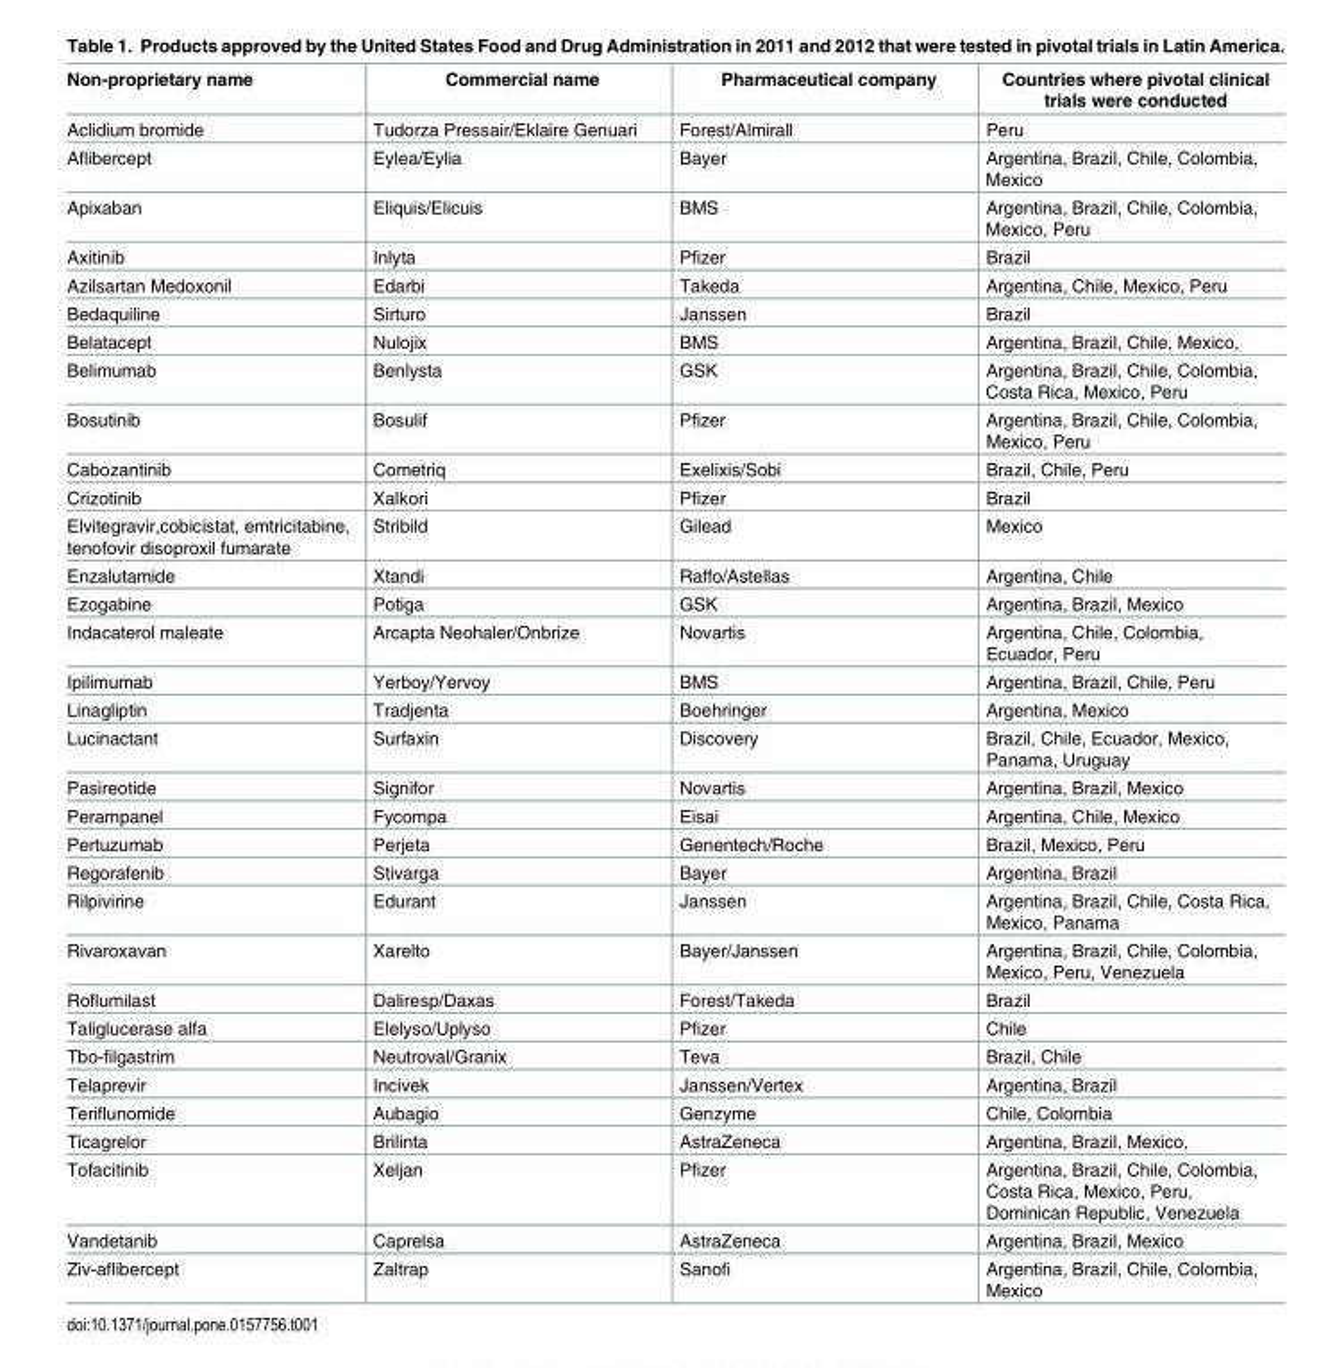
<table><thead><tr><td>Non-proprietary name</td><td>Commercial name</td><td>Pharmaceutical company</td><td>Countries where pivotal clinical trials were conducted</td></tr></thead><tbody><tr><td>Aclidium bromide</td><td>Tudorza Pressair/Eklaire Genuari</td><td>Forest/Almirall</td><td>Peru</td></tr><tr><td>Aflibercept</td><td>Eylea/Eylia</td><td>Bayer</td><td>Argentina, Brazil, Chile, Colombia, Mexico</td></tr><tr><td>Apixaban</td><td>Eliquis/Elicuis</td><td>BMS</td><td>Argentina, Brazil, Chile, Colombia, Mexico, Peru</td></tr><tr><td>Axitinib</td><td>Inlyta</td><td>Pfizer</td><td>Brazil</td></tr><tr><td>Azilsartan Medoxonil</td><td>Edarbi</td><td>Takeda</td><td>Argentina, Chile, Mexico, Peru</td></tr><tr><td>Bedaquiline</td><td>Sirturo</td><td>Janssen</td><td>Brazil</td></tr><tr><td>Belatacept</td><td>Nulojix</td><td>BMS</td><td>Argentina, Brazil, Chile, Mexico,</td></tr><tr><td>Belimumab</td><td>Benlysta</td><td>GSK</td><td>Argentina, Brazil, Chile, Colombia, Costa Rica, Mexico, Peru</td></tr><tr><td>Bosutinib</td><td>Bosulif</td><td>Pfizer</td><td>Argentina, Brazil, Chile, Colombia, Mexico, Peru</td></tr><tr><td>Cabozantinib</td><td>Cometriq</td><td>Exelixis/Sobi</td><td>Brazil, Chile, Peru</td></tr><tr><td>Crizotinib</td><td>Xalkori</td><td>Pfizer</td><td>Brazil</td></tr><tr><td>Elvitegravir,cobicistat, emtricitabine, tenofovir disoproxil fumarate</td><td>Stribild</td><td>Gilead</td><td>Mexico</td></tr><tr><td>Enzalutamide</td><td>Xtandi</td><td>Raffo/Astellas</td><td>Argentina, Chile</td></tr><tr><td>Ezogabine</td><td>Potiga</td><td>GSK</td><td>Argentina, Brazil, Mexico</td></tr><tr><td>Indacaterol maleate</td><td>Arcapta Neohaler/Onbrize</td><td>Novartis</td><td>Argentina, Chile, Colombia, Ecuador, Peru</td></tr><tr><td>Ipilimumab</td><td>Yerboy/Yervoy</td><td>BMS</td><td>Argentina, Brazil, Chile, Peru</td></tr><tr><td>Linagliptin</td><td>Tradjenta</td><td>Boehringer</td><td>Argentina, Mexico</td></tr><tr><td>Lucinactant</td><td>Surfaxin</td><td>Discovery</td><td>Brazil, Chile, Ecuador, Mexico, Panama, Uruguay</td></tr><tr><td>Pasireotide</td><td>Signifor</td><td>Novartis</td><td>Argentina, Brazil, Mexico</td></tr><tr><td>Perampanel</td><td>Fycompa</td><td>Eisai</td><td>Argentina, Chile, Mexico</td></tr><tr><td>Pertuzumab</td><td>Perjeta</td><td>Genentech/Roche</td><td>Brazil, Mexico, Peru</td></tr><tr><td>Regorafenib</td><td>Stivarga</td><td>Bayer</td><td>Argentina, Brazil</td></tr><tr><td>Rilpivirine</td><td>Edurant</td><td>Janssen</td><td>Argentina, Brazil, Chile, Costa Rica, Mexico, Panama</td></tr><tr><td>Rivaroxavan</td><td>Xarelto</td><td>Bayer/Janssen</td><td>Argentina, Brazil, Chile, Colombia, Mexico, Peru, Venezuela</td></tr><tr><td>Roflumilast</td><td>Daliresp/Daxas</td><td>Forest/Takeda</td><td>Brazil</td></tr><tr><td>Taliglucerase alfa</td><td>Elelyso/Uplyso</td><td>Pfizer</td><td>Chile</td></tr><tr><td>Tbo-filgastrim</td><td>Neutroval/Granix</td><td>Teva</td><td>Brazil, Chile</td></tr><tr><td>Telaprevir</td><td>Incivek</td><td>Janssen/Vertex</td><td>Argentina, Brazil</td></tr><tr><td>Teriflunomide</td><td>Aubagio</td><td>Genzyme</td><td>Chile, Colombia</td></tr><tr><td>Ticagrelor</td><td>Brilinta</td><td>AstraZeneca</td><td>Argentina, Brazil, Mexico,</td></tr><tr><td>Tofacitinib</td><td>Xeljan</td><td>Pfizer</td><td>Argentina, Brazil, Chile, Colombia, Costa Rica, Mexico, Peru, Dominican Republic, Venezuela</td></tr><tr><td>Vandetanib</td><td>Caprelsa</td><td>AstraZeneca</td><td>Argentina, Brazil, Mexico</td></tr><tr><td>Ziv-aflibercept</td><td>Zaltrap</td><td>Sanofi</td><td>Argentina, Brazil, Chile, Colombia, Mexico</td></tr></tbody></table>